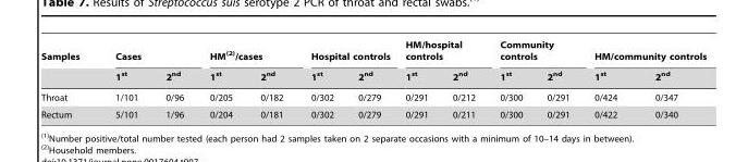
<table><thead><tr><td rowspan="2">Samples</td><td colspan="2">Cases</td><td colspan="2">HM(2)/cases</td><td colspan="2">Hospital controls</td><td colspan="2">HM/hospital controls</td><td colspan="2">Community controls</td><td colspan="2">HM/community controls</td></tr><tr><td>1<sup>st</sup></td><td>2<sup>nd</sup></td><td>1<sup>st</sup></td><td>2<sup>nd</sup></td><td>1<sup>st</sup></td><td>2<sup>nd</sup></td><td>1<sup>st</sup></td><td>2<sup>nd</sup></td><td>1<sup>st</sup></td><td>2<sup>nd</sup></td><td>1<sup>st</sup></td><td>2<sup>nd</sup></td></tr></thead><tbody><tr><td>Throat</td><td>1/101</td><td>0/96</td><td>0/205</td><td>0/182</td><td>0/302</td><td>0/279</td><td>0/291</td><td>0/212</td><td>0/300</td><td>0/291</td><td>0/424</td><td>0/347</td></tr><tr><td>Rectum</td><td>5/101</td><td>1/96</td><td>0/204</td><td>0/181</td><td>0/302</td><td>0/279</td><td>0/291</td><td>0/211</td><td>0/300</td><td>0/291</td><td>0/422</td><td>0/340</td></tr></tbody></table>